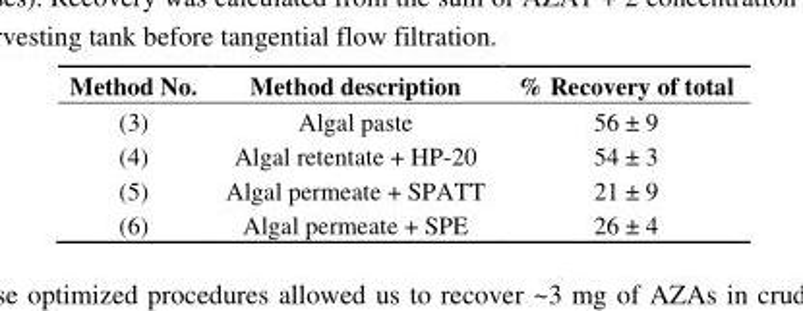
<table><thead><tr><td>Method No.</td><td>Method description</td><td>% Recovery of total</td></tr></thead><tbody><tr><td>(3)</td><td>Algal paste</td><td>56 ± 9</td></tr><tr><td>(4)</td><td>Algal retentate + HP-20</td><td>54 ± 3</td></tr><tr><td>(5)</td><td>Algal permeate + SPATT</td><td>21 ± 9</td></tr><tr><td>(6)</td><td>Algal permeate + SPE</td><td>26 ± 4</td></tr></tbody></table>